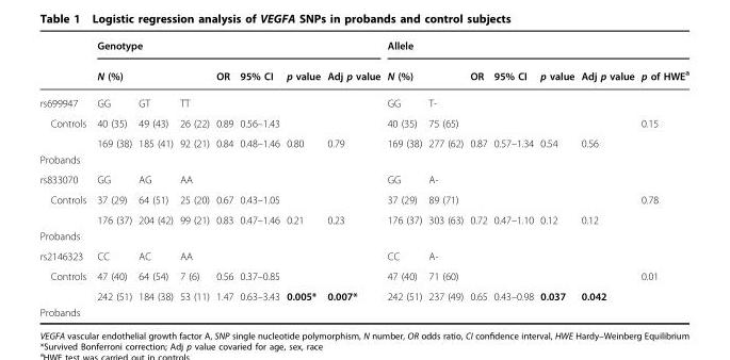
<table><thead><tr><td rowspan="3">rs699947</td><td colspan="7">Genotype</td><td colspan="7">Allele</td></tr><tr><td colspan="3">N (%)</td><td rowspan="2">OR</td><td rowspan="2">95% CI</td><td rowspan="2">p value</td><td rowspan="2">Adj p value</td><td colspan="2">N (%)</td><td rowspan="2">OR</td><td rowspan="2">95% CI</td><td rowspan="2">p value</td><td rowspan="2">Adj p value</td><td rowspan="2">p of HWE<sup>a</sup></td></tr><tr><td>GG</td><td>GT</td><td>TT</td><td>GG</td><td>T-</td></tr></thead><tbody><tr><td>Controls</td><td>40 (35)</td><td>49 (43)</td><td>26 (22)</td><td>0.89</td><td>0.56–1.43</td><td></td><td></td><td>40 (35)</td><td>75 (65)</td><td></td><td></td><td></td><td></td><td>0.15</td></tr><tr><td>Probands</td><td>169 (38)</td><td>185 (41)</td><td>92 (21)</td><td>0.84</td><td>0.48–1.46</td><td>0.80</td><td>0.79</td><td>169 (38)</td><td>277 (62)</td><td>0.87</td><td>0.57–1.34</td><td>0.54</td><td>0.56</td><td></td></tr><tr><td>rs833070</td><td>GG</td><td>AG</td><td>AA</td><td></td><td></td><td></td><td></td><td>GG</td><td>A-</td><td></td><td></td><td></td><td></td><td></td></tr><tr><td>Controls</td><td>37 (29)</td><td>64 (51)</td><td>25 (20)</td><td>0.67</td><td>0.43–1.05</td><td></td><td></td><td>37 (29)</td><td>89 (71)</td><td></td><td></td><td></td><td></td><td>0.78</td></tr><tr><td>Probands</td><td>176 (37)</td><td>204 (42)</td><td>99 (21)</td><td>0.83</td><td>0.47–1.46</td><td>0.21</td><td>0.23</td><td>176 (37)</td><td>303 (63)</td><td>0.72</td><td>0.47–1.10</td><td>0.12</td><td>0.12</td><td></td></tr><tr><td>rs2146323</td><td>CC</td><td>AC</td><td>AA</td><td></td><td></td><td></td><td></td><td>CC</td><td>A-</td><td></td><td></td><td></td><td></td><td></td></tr><tr><td>Controls</td><td>47 (40)</td><td>64 (54)</td><td>7 (6)</td><td>0.56</td><td>0.37–0.85</td><td></td><td></td><td>47 (40)</td><td>71 (60)</td><td></td><td></td><td></td><td></td><td>0.01</td></tr><tr><td>Probands</td><td>242 (51)</td><td>184 (38)</td><td>53 (11)</td><td>1.47</td><td>0.63–3.43</td><td>0.005*</td><td>0.007*</td><td>242 (51)</td><td>237 (49)</td><td>0.65</td><td>0.43–0.98</td><td>0.037</td><td>0.042</td><td></td></tr></tbody></table>